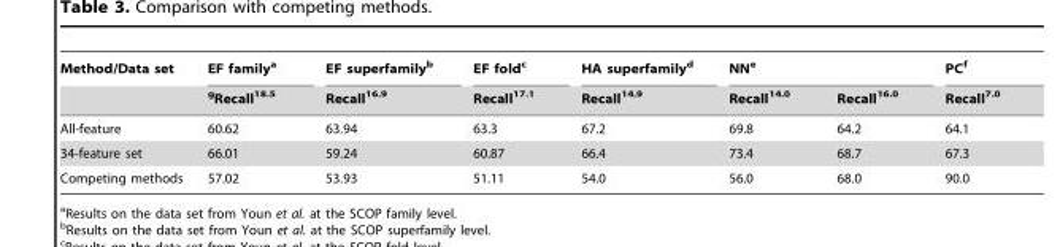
<table><thead><tr><td rowspan="2">Method/Data set</td><td rowspan="2">EF family<sup>a</sup> gRecall<sup>18.5</sup></td><td rowspan="2">EF superfamily<sup>b</sup> Recall<sup>16.9</sup></td><td rowspan="2">EF fold<sup>c</sup> Recall<sup>17.1</sup></td><td rowspan="2">HA superfamily<sup>d</sup> Recall<sup>14.9</sup></td><td colspan="2">NN<sup>e</sup></td><td rowspan="2">PC<sup>f</sup> Recall<sup>7.0</sup></td></tr><tr><td>Recall<sup>14.0</sup></td><td>Recall<sup>16.0</sup></td></tr></thead><tbody><tr><td>All-feature</td><td>60.62</td><td>63.94</td><td>63.3</td><td>67.2</td><td>69.8</td><td>64.2</td><td>64.1</td></tr><tr><td>34-feature set</td><td>66.01</td><td>59.24</td><td>60.87</td><td>66.4</td><td>73.4</td><td>68.7</td><td>67.3</td></tr><tr><td>Competing methods</td><td>57.02</td><td>53.93</td><td>51.11</td><td>54.0</td><td>56.0</td><td>68.0</td><td>90.0</td></tr></tbody></table>